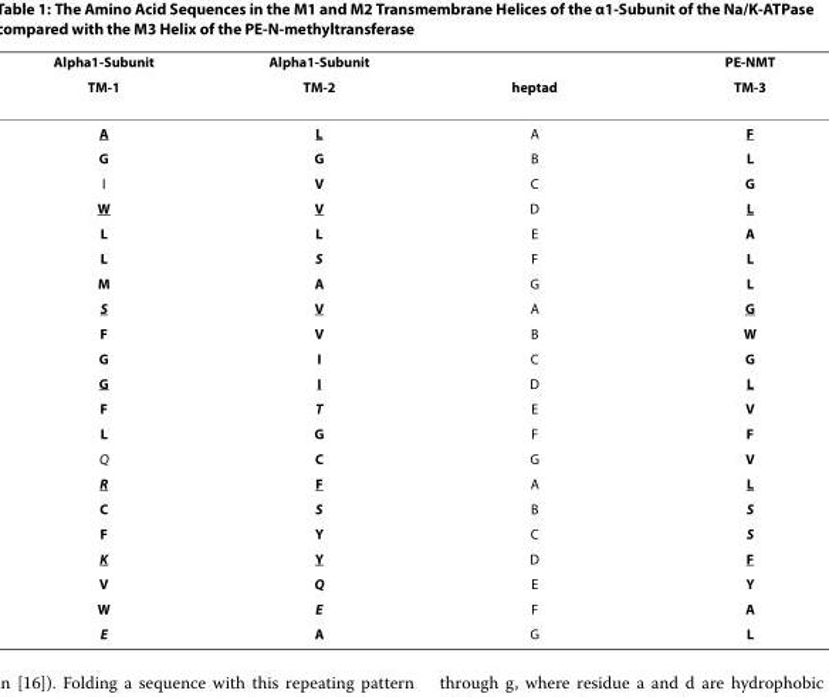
<table><thead><tr><td rowspan="2">Alpha1-Subunit TM-1</td><td rowspan="2">Alpha1-Subunit TM-2</td><td rowspan="2">heptad</td><td rowspan="2">PE-NMT TM-3</td></tr><tr></tr></thead><tbody><tr><td>A</td><td>L</td><td>A</td><td>F</td></tr><tr><td>G</td><td>G</td><td>B</td><td>L</td></tr><tr><td>I</td><td>V</td><td>C</td><td>G</td></tr><tr><td>W</td><td>V</td><td>D</td><td>L</td></tr><tr><td>L</td><td>L</td><td>E</td><td>A</td></tr><tr><td>L</td><td>S</td><td>F</td><td>L</td></tr><tr><td>M</td><td>A</td><td>G</td><td>L</td></tr><tr><td>S</td><td>V</td><td>A</td><td>G</td></tr><tr><td>F</td><td>V</td><td>B</td><td>W</td></tr><tr><td>G</td><td>I</td><td>C</td><td>G</td></tr><tr><td>G</td><td>I</td><td>D</td><td>L</td></tr><tr><td>F</td><td>T</td><td>E</td><td>V</td></tr><tr><td>L</td><td>G</td><td>F</td><td>F</td></tr><tr><td>Q</td><td>C</td><td>G</td><td>V</td></tr><tr><td>R</td><td>F</td><td>A</td><td>L</td></tr><tr><td>C</td><td>S</td><td>B</td><td>S</td></tr><tr><td>F</td><td>Y</td><td>C</td><td>S</td></tr><tr><td>K</td><td>Y</td><td>D</td><td>F</td></tr><tr><td>V</td><td>Q</td><td>E</td><td>Y</td></tr><tr><td>W</td><td>E</td><td>F</td><td>A</td></tr><tr><td>E</td><td>A</td><td>G</td><td>L</td></tr></tbody></table>